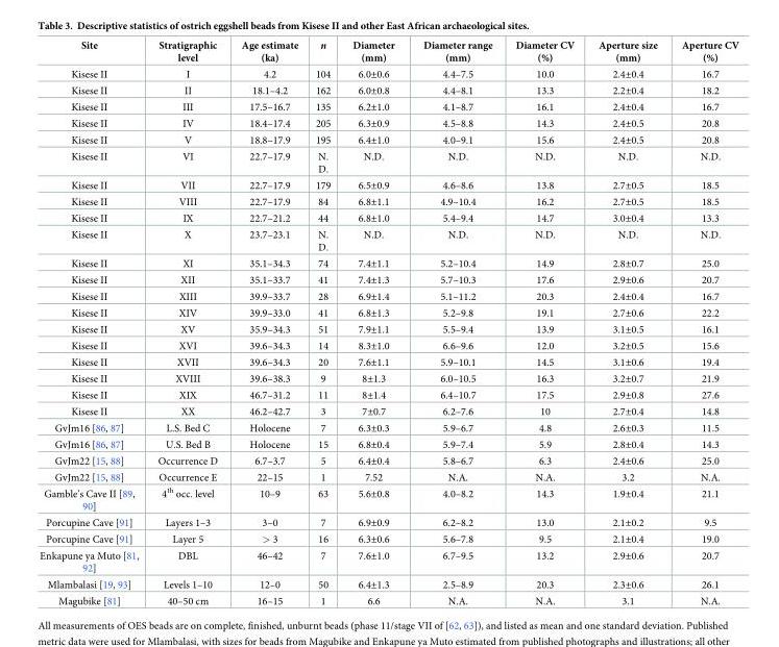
<table><thead><tr><td>Site</td><td>Stratigraphic level</td><td>Age estimate (ka)</td><td>n</td><td>Diameter (mm)</td><td>Diameter range (mm)</td><td>Diameter CV (%)</td><td>Aperture size (mm)</td><td>Aperture CV (%)</td></tr></thead><tbody><tr><td>Kisese II</td><td>I</td><td>4.2</td><td>104</td><td>6.0±0.6</td><td>4.4–7.5</td><td>10.0</td><td>2.4±0.4</td><td>16.7</td></tr><tr><td>Kisese II</td><td>II</td><td>18.1–4.2</td><td>162</td><td>6.0±0.8</td><td>4.4–8.1</td><td>13.3</td><td>2.2±0.4</td><td>18.2</td></tr><tr><td>Kisese II</td><td>III</td><td>17.5–16.7</td><td>135</td><td>6.2±1.0</td><td>4.1–8.7</td><td>16.1</td><td>2.4±0.4</td><td>16.7</td></tr><tr><td>Kisese II</td><td>IV</td><td>18.4–17.4</td><td>205</td><td>6.3±0.9</td><td>4.5–8.8</td><td>14.3</td><td>2.4±0.5</td><td>20.8</td></tr><tr><td>Kisese II</td><td>V</td><td>18.8–17.9</td><td>195</td><td>6.4±1.0</td><td>4.0–9.1</td><td>15.6</td><td>2.4±0.5</td><td>20.8</td></tr><tr><td>Kisese II</td><td>VI</td><td>22.7–17.9</td><td>N. D.</td><td>N.D.</td><td>N.D.</td><td>N.D.</td><td>N.D.</td><td>N.D.</td></tr><tr><td>Kisese II</td><td>VII</td><td>22.7–17.9</td><td>179</td><td>6.5±0.9</td><td>4.6–8.6</td><td>13.8</td><td>2.7±0.5</td><td>18.5</td></tr><tr><td>Kisese II</td><td>VIII</td><td>22.7–17.9</td><td>84</td><td>6.8±1.1</td><td>4.9–10.4</td><td>16.2</td><td>2.7±0.5</td><td>18.5</td></tr><tr><td>Kisese II</td><td>IX</td><td>22.7–21.2</td><td>44</td><td>6.8±1.0</td><td>5.4–9.4</td><td>14.7</td><td>3.0±0.4</td><td>13.3</td></tr><tr><td>Kisese II</td><td>X</td><td>23.7–23.1</td><td>N. D.</td><td>N.D.</td><td>N.D.</td><td>N.D.</td><td>N.D.</td><td>N.D.</td></tr><tr><td>Kisese II</td><td>XI</td><td>35.1–34.3</td><td>74</td><td>7.4±1.1</td><td>5.2–10.4</td><td>14.9</td><td>2.8±0.7</td><td>25.0</td></tr><tr><td>Kisese II</td><td>XII</td><td>35.1–33.7</td><td>41</td><td>7.4±1.3</td><td>5.7–10.3</td><td>17.6</td><td>2.9±0.6</td><td>20.7</td></tr><tr><td>Kisese II</td><td>XIII</td><td>39.9–33.7</td><td>28</td><td>6.9±1.4</td><td>5.1–11.2</td><td>20.3</td><td>2.4±0.4</td><td>16.7</td></tr><tr><td>Kisese II</td><td>XIV</td><td>39.9–33.0</td><td>41</td><td>6.8±1.3</td><td>5.2–9.8</td><td>19.1</td><td>2.7±0.6</td><td>22.2</td></tr><tr><td>Kisese II</td><td>XV</td><td>35.9–34.3</td><td>51</td><td>7.9±1.1</td><td>5.5–9.4</td><td>13.9</td><td>3.1±0.5</td><td>16.1</td></tr><tr><td>Kisese II</td><td>XVI</td><td>39.6–34.3</td><td>14</td><td>8.3±1.0</td><td>6.6–9.6</td><td>12.0</td><td>3.2±0.5</td><td>15.6</td></tr><tr><td>Kisese II</td><td>XVII</td><td>39.6–34.3</td><td>20</td><td>7.6±1.1</td><td>5.9–10.1</td><td>14.5</td><td>3.1±0.6</td><td>19.4</td></tr><tr><td>Kisese II</td><td>XVIII</td><td>39.6–38.3</td><td>9</td><td>8±1.3</td><td>6.0–10.5</td><td>16.3</td><td>3.2±0.7</td><td>21.9</td></tr><tr><td>Kisese II</td><td>XIX</td><td>46.7–31.2</td><td>11</td><td>8±1.4</td><td>6.4–10.7</td><td>17.5</td><td>2.9±0.8</td><td>27.6</td></tr><tr><td>Kisese II</td><td>XX</td><td>46.2–42.7</td><td>3</td><td>7±0.7</td><td>6.2–7.6</td><td>10</td><td>2.7±0.4</td><td>14.8</td></tr><tr><td>GvJm16 [86, 87]</td><td>L.S. Bed C</td><td>Holocene</td><td>7</td><td>6.3±0.3</td><td>5.9–6.7</td><td>4.8</td><td>2.6±0.3</td><td>11.5</td></tr><tr><td>GvJm16 [86, 87]</td><td>U.S. Bed B</td><td>Holocene</td><td>15</td><td>6.8±0.4</td><td>5.9–7.4</td><td>5.9</td><td>2.8±0.4</td><td>14.3</td></tr><tr><td>GvJm22 [15, 88]</td><td>Occurrence D</td><td>6.7–3.7</td><td>5</td><td>6.4±0.4</td><td>5.8–6.7</td><td>6.3</td><td>2.4±0.6</td><td>25.0</td></tr><tr><td>GvJm22 [15, 88]</td><td>Occurrence E</td><td>22–15</td><td>1</td><td>7.52</td><td>N.A.</td><td>N.A.</td><td>3.2</td><td>N.A.</td></tr><tr><td>Gamble’s Cave II [89, 90]</td><td>4<sup>th</sup> occ. level</td><td>10–9</td><td>63</td><td>5.6±0.8</td><td>4.0–8.2</td><td>14.3</td><td>1.9±0.4</td><td>21.1</td></tr><tr><td>Porcupine Cave [91]</td><td>Layers 1–3</td><td>3–0</td><td>7</td><td>6.9±0.9</td><td>6.2–8.2</td><td>13.0</td><td>2.1±0.2</td><td>9.5</td></tr><tr><td>Porcupine Cave [91]</td><td>Layer 5</td><td>&gt; 3</td><td>16</td><td>6.3±0.6</td><td>5.6–7.8</td><td>9.5</td><td>2.1±0.4</td><td>19.0</td></tr><tr><td>Enkapune ya Muto [81, 92]</td><td>DBL</td><td>46–42</td><td>7</td><td>7.6±1.0</td><td>6.7–9.5</td><td>13.2</td><td>2.9±0.6</td><td>20.7</td></tr><tr><td>Mlambalasi [19, 93]</td><td>Levels 1–10</td><td>12–0</td><td>50</td><td>6.4±1.3</td><td>2.5–8.9</td><td>20.3</td><td>2.3±0.6</td><td>26.1</td></tr><tr><td>Magubike [81]</td><td>40–50 cm</td><td>16–15</td><td>1</td><td>6.6</td><td>N.A.</td><td>N.A.</td><td>3.1</td><td>N.A.</td></tr></tbody></table>